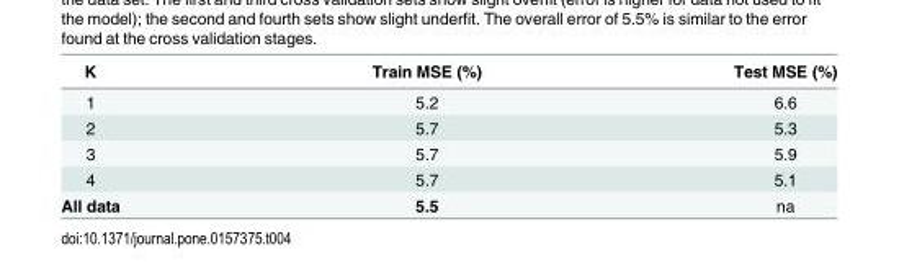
<table><thead><tr><td>K</td><td>Train MSE (%)</td><td>Test MSE (%)</td></tr></thead><tbody><tr><td>1</td><td>5.2</td><td>6.6</td></tr><tr><td>2</td><td>5.7</td><td>5.3</td></tr><tr><td>3</td><td>5.7</td><td>5.9</td></tr><tr><td>4</td><td>5.7</td><td>5.1</td></tr><tr><td>All data</td><td>5.5</td><td>na</td></tr></tbody></table>